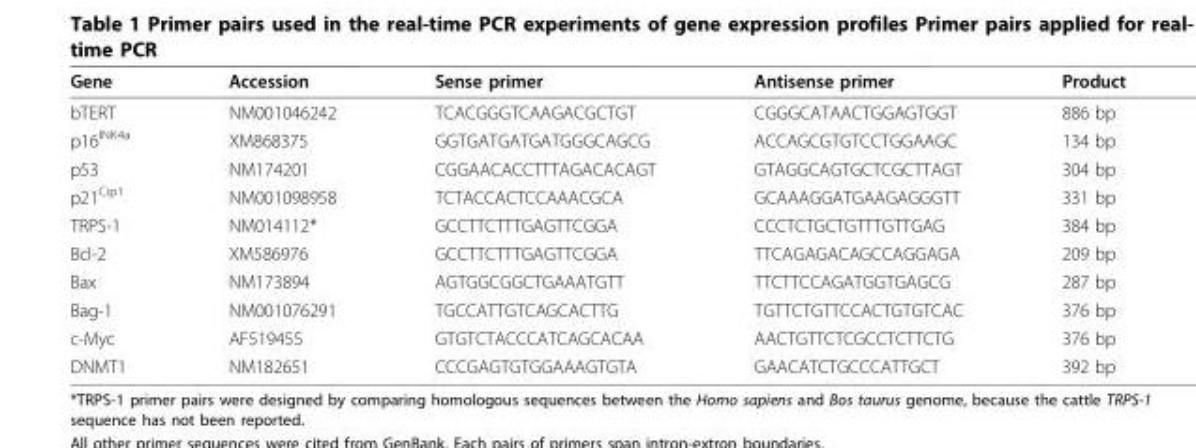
<table><thead><tr><td>Gene</td><td>Accession</td><td>Sense primer</td><td>Antisense primer</td><td>Product</td></tr></thead><tbody><tr><td>bTERT</td><td>NM001046242</td><td>TCACGGGTCAAGACGCTGT</td><td>CGGGCATAACTGGAGTGGT</td><td>886 bp</td></tr><tr><td>p16<sup>INK4a</sup></td><td>XM868375</td><td>GGTGATGATGATGGGCAGCG</td><td>ACCAGCGTGTCCTGGAAGC</td><td>134 bp</td></tr><tr><td>p53</td><td>NM174201</td><td>CGGAACACCTTTAGACACAGT</td><td>GTAGGCAGTGCTCGCTTAGT</td><td>304 bp</td></tr><tr><td>p21<sup>Cip1</sup></td><td>NM001098958</td><td>TCTACCACTCCAAACGCA</td><td>GCAAAGGATGAAGAGGGTT</td><td>331 bp</td></tr><tr><td>TRPS-1</td><td>NM014112*</td><td>GCCTTCTTTGAGTTCGGA</td><td>CCCTCTGCTGTTTGTTGAG</td><td>384 bp</td></tr><tr><td>Bcl-2</td><td>XM586976</td><td>GCCTTCTTTGAGTTCGGA</td><td>TTCAGAGACAGCCAGGAGA</td><td>209 bp</td></tr><tr><td>Bax</td><td>NM173894</td><td>AGTGGCGGCTGAAATGTT</td><td>TTCTTCCAGATGGTGAGCG</td><td>287 bp</td></tr><tr><td>Bag-1</td><td>NM001076291</td><td>TGCCATTGTCAGCACTTG</td><td>TGTTCTGTTCCACTGTGTCAC</td><td>376 bp</td></tr><tr><td>c-Myc</td><td>AF519455</td><td>GTGTCTACCCATCAGCACAA</td><td>AACTGTTCTCGCCTCTTCTG</td><td>376 bp</td></tr><tr><td>DNMT1</td><td>NM182651</td><td>CCCGAGTGTGGAAAGTGTA</td><td>GAACATCTGCCCATTGCT</td><td>392 bp</td></tr></tbody></table>